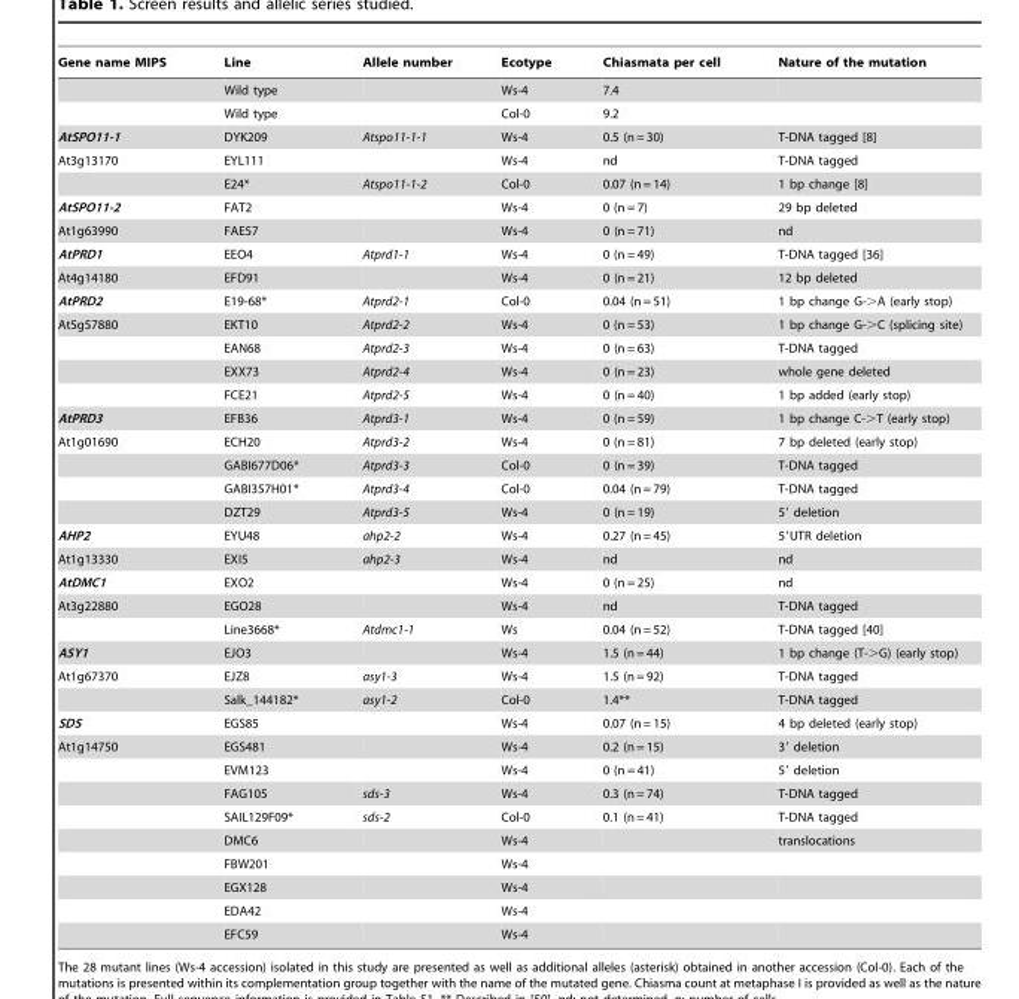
<table><thead><tr><td>Gene name MIPS</td><td>Line</td><td>Allele number</td><td>Ecotype</td><td>Chiasmata per cell</td><td>Nature of the mutation</td></tr></thead><tbody><tr><td></td><td>Wild type</td><td></td><td>Ws-4</td><td>7.4</td><td></td></tr><tr><td></td><td>Wild type</td><td></td><td>Col-0</td><td>9.2</td><td></td></tr><tr><td>AtSPO11-1</td><td>DYK209</td><td>Atspo11-1-1</td><td>Ws-4</td><td>0.5 (n = 30)</td><td>T-DNA tagged [8]</td></tr><tr><td rowspan="2">At3g13170</td><td>EYL111</td><td></td><td>Ws-4</td><td>nd</td><td>T-DNA tagged</td></tr><tr><td>E24*</td><td>Atspo11-1-2</td><td>Col-0</td><td>0.07 (n = 14)</td><td>1 bp change [8]</td></tr><tr><td>AtSPO11-2</td><td>FAT2</td><td></td><td>Ws-4</td><td>0 (n = 7)</td><td>29 bp deleted</td></tr><tr><td>At1g63990</td><td>FAE57</td><td></td><td>Ws-4</td><td>0 (n = 71)</td><td>nd</td></tr><tr><td>AtPRD1</td><td>EEO4</td><td>Atprd1-1</td><td>Ws-4</td><td>0 (n = 49)</td><td>T-DNA tagged [36]</td></tr><tr><td>At4g14180</td><td>EFD91</td><td></td><td>Ws-4</td><td>0 (n = 21)</td><td>12 bp deleted</td></tr><tr><td>AtPRD2</td><td>E19-68*</td><td>Atprd2-1</td><td>Col-0</td><td>0.04 (n = 51)</td><td>1 bp change G-&gt;A (early stop)</td></tr><tr><td rowspan="4">At5g57880</td><td>EKT10</td><td>Atprd2-2</td><td>Ws-4</td><td>0 (n = 53)</td><td>1 bp change G-&gt;C (splicing site)</td></tr><tr><td>EAN68</td><td>Atprd2-3</td><td>Ws-4</td><td>0 (n = 63)</td><td>T-DNA tagged</td></tr><tr><td>EXX73</td><td>Atprd2-4</td><td>Ws-4</td><td>0 (n = 23)</td><td>whole gene deleted</td></tr><tr><td>FCE21</td><td>Atprd2-5</td><td>Ws-4</td><td>0 (n = 40)</td><td>1 bp added (early stop)</td></tr><tr><td>AtPRD3</td><td>EFB36</td><td>Atprd3-1</td><td>Ws-4</td><td>0 (n = 59)</td><td>1 bp change C-&gt;T (early stop)</td></tr><tr><td rowspan="4">At1g01690</td><td>ECH20</td><td>Atprd3-2</td><td>Ws-4</td><td>0 (n = 81)</td><td>7 bp deleted (early stop)</td></tr><tr><td>GABI677D06*</td><td>Atprd3-3</td><td>Col-0</td><td>0 (n = 39)</td><td>T-DNA tagged</td></tr><tr><td>GABI357H01*</td><td>Atprd3-4</td><td>Col-0</td><td>0.04 (n = 79)</td><td>T-DNA tagged</td></tr><tr><td>DZT29</td><td>Atprd3-5</td><td>Ws-4</td><td>0 (n = 19)</td><td>5′ deletion</td></tr><tr><td>AHP2</td><td>EYU48</td><td>ahp2-2</td><td>Ws-4</td><td>0.27 (n = 45)</td><td>5′UTR deletion</td></tr><tr><td>At1g13330</td><td>EXI5</td><td>ahp2-3</td><td>Ws-4</td><td>nd</td><td>nd</td></tr><tr><td>AtDMC1</td><td>EXO2</td><td></td><td>Ws-4</td><td>0 (n = 25)</td><td>nd</td></tr><tr><td rowspan="2">At3g22880</td><td>EGO28</td><td></td><td>Ws-4</td><td>nd</td><td>T-DNA tagged</td></tr><tr><td>Line3668*</td><td>Atdmc1-1</td><td>Ws</td><td>0.04 (n = 52)</td><td>T-DNA tagged [40]</td></tr><tr><td>ASY1</td><td>EJO3</td><td></td><td>Ws-4</td><td>1.5 (n = 44)</td><td>1 bp change (T-&gt;G) (early stop)</td></tr><tr><td rowspan="2">At1g67370</td><td>EJZ8</td><td>asy1-3</td><td>Ws-4</td><td>1.5 (n = 92)</td><td>T-DNA tagged</td></tr><tr><td>Salk_144182*</td><td>asy1-2</td><td>Col-0</td><td>1.4**</td><td>T-DNA tagged</td></tr><tr><td>SDS</td><td>EGS85</td><td></td><td>Ws-4</td><td>0.07 (n = 15)</td><td>4 bp deleted (early stop)</td></tr><tr><td rowspan="9">At1g14750</td><td>EGS481</td><td></td><td>Ws-4</td><td>0.2 (n = 15)</td><td>3′ deletion</td></tr><tr><td>EVM123</td><td></td><td>Ws-4</td><td>0 (n = 41)</td><td>5′ deletion</td></tr><tr><td>FAG105</td><td>sds-3</td><td>Ws-4</td><td>0.3 (n = 74)</td><td>T-DNA tagged</td></tr><tr><td>SAIL129F09*</td><td>sds-2</td><td>Col-0</td><td>0.1 (n = 41)</td><td>T-DNA tagged</td></tr><tr><td>DMC6</td><td></td><td>Ws-4</td><td></td><td>translocations</td></tr><tr><td>FBW201</td><td></td><td>Ws-4</td><td></td><td></td></tr><tr><td>EGX128</td><td></td><td>Ws-4</td><td></td><td></td></tr><tr><td>EDA42</td><td></td><td>Ws-4</td><td></td><td></td></tr><tr><td>EFC59</td><td></td><td>Ws-4</td><td></td><td></td></tr></tbody></table>